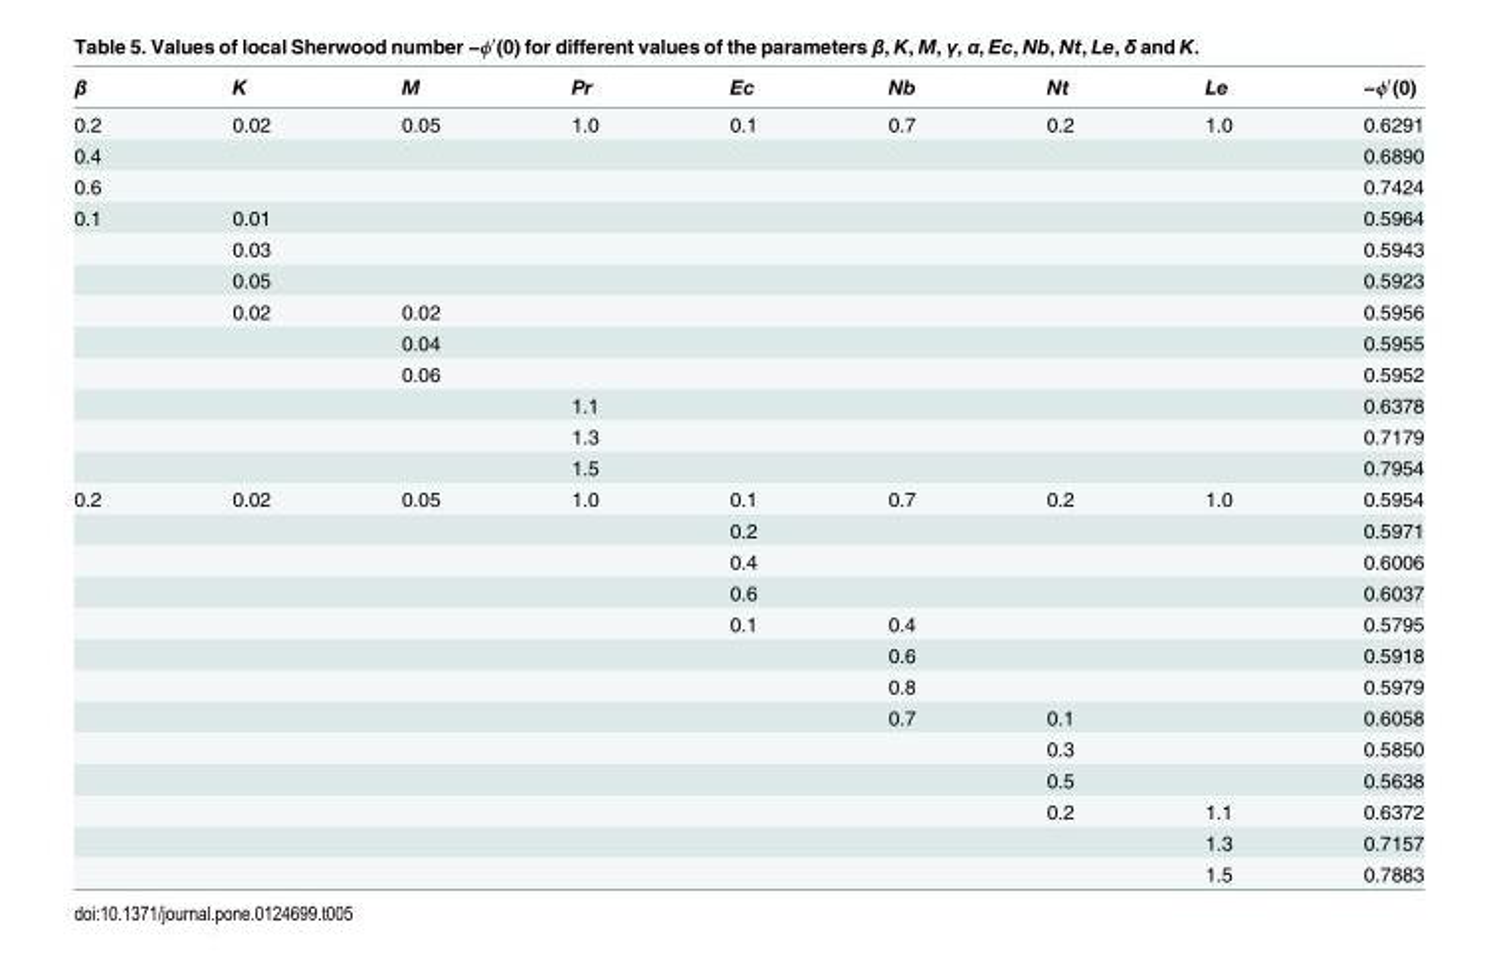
<table><thead><tr><td>β</td><td>K</td><td>M</td><td>Pr</td><td>Ec</td><td>Nb</td><td>Nt</td><td>Le</td><td>−ϕ<sup>′</sup>(0)</td></tr></thead><tbody><tr><td>0.2</td><td>0.02</td><td>0.05</td><td>1.0</td><td>0.1</td><td>0.7</td><td>0.2</td><td>1.0</td><td>0.6291</td></tr><tr><td>0.4</td><td></td><td></td><td></td><td></td><td></td><td></td><td></td><td>0.6890</td></tr><tr><td>0.6</td><td></td><td></td><td></td><td></td><td></td><td></td><td></td><td>0.7424</td></tr><tr><td rowspan="9">0.1</td><td>0.01</td><td></td><td></td><td></td><td></td><td></td><td></td><td>0.5964</td></tr><tr><td>0.03</td><td></td><td></td><td></td><td></td><td></td><td></td><td>0.5943</td></tr><tr><td>0.05</td><td></td><td></td><td></td><td></td><td></td><td></td><td>0.5923</td></tr><tr><td>0.02</td><td>0.02</td><td></td><td></td><td></td><td></td><td></td><td>0.5956</td></tr><tr><td></td><td>0.04</td><td></td><td></td><td></td><td></td><td></td><td>0.5955</td></tr><tr><td></td><td>0.06</td><td></td><td></td><td></td><td></td><td></td><td>0.5952</td></tr><tr><td></td><td></td><td>1.1</td><td></td><td></td><td></td><td></td><td>0.6378</td></tr><tr><td></td><td></td><td>1.3</td><td></td><td></td><td></td><td></td><td>0.7179</td></tr><tr><td></td><td></td><td>1.5</td><td></td><td></td><td></td><td></td><td>0.7954</td></tr><tr><td rowspan="13">0.2</td><td>0.02</td><td>0.05</td><td>1.0</td><td>0.1</td><td>0.7</td><td>0.2</td><td>1.0</td><td>0.5954</td></tr><tr><td></td><td></td><td></td><td>0.2</td><td></td><td></td><td></td><td>0.5971</td></tr><tr><td></td><td></td><td></td><td>0.4</td><td></td><td></td><td></td><td>0.6006</td></tr><tr><td></td><td></td><td></td><td>0.6</td><td></td><td></td><td></td><td>0.6037</td></tr><tr><td></td><td></td><td></td><td>0.1</td><td>0.4</td><td></td><td></td><td>0.5795</td></tr><tr><td></td><td></td><td></td><td></td><td>0.6</td><td></td><td></td><td>0.5918</td></tr><tr><td></td><td></td><td></td><td></td><td>0.8</td><td></td><td></td><td>0.5979</td></tr><tr><td></td><td></td><td></td><td></td><td>0.7</td><td>0.1</td><td></td><td>0.6058</td></tr><tr><td></td><td></td><td></td><td></td><td></td><td>0.3</td><td></td><td>0.5850</td></tr><tr><td></td><td></td><td></td><td></td><td></td><td>0.5</td><td></td><td>0.5638</td></tr><tr><td></td><td></td><td></td><td></td><td></td><td>0.2</td><td>1.1</td><td>0.6372</td></tr><tr><td></td><td></td><td></td><td></td><td></td><td></td><td>1.3</td><td>0.7157</td></tr><tr><td></td><td></td><td></td><td></td><td></td><td></td><td>1.5</td><td>0.7883</td></tr></tbody></table>